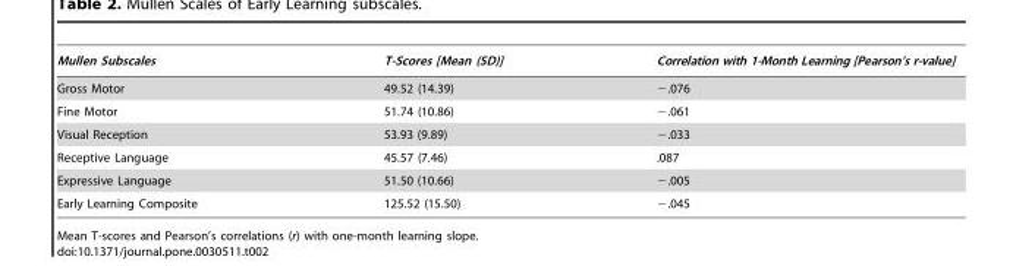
<table><thead><tr><td>Mullen Subscales</td><td>T-Scores [Mean (SD)]</td><td>Correlation with 1-Month Learning [Pearson’s r-value]</td></tr></thead><tbody><tr><td>Gross Motor</td><td>49.52 (14.39)</td><td>−.076</td></tr><tr><td>Fine Motor</td><td>51.74 (10.86)</td><td>−.061</td></tr><tr><td>Visual Reception</td><td>53.93 (9.89)</td><td>−.033</td></tr><tr><td>Receptive Language</td><td>45.57 (7.46)</td><td>.087</td></tr><tr><td>Expressive Language</td><td>51.50 (10.66)</td><td>−.005</td></tr><tr><td>Early Learning Composite</td><td>125.52 (15.50)</td><td>−.045</td></tr></tbody></table>